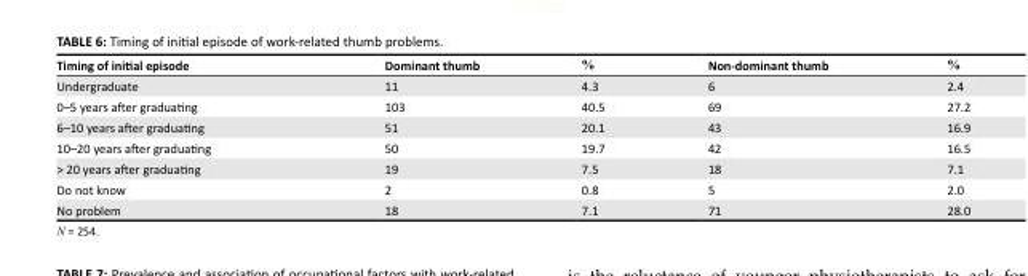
<table><thead><tr><td>Timing of initial episode</td><td>Dominant thumb</td><td>%</td><td>Non-dominant thumb</td><td>%</td></tr></thead><tbody><tr><td>Undergraduate</td><td>11</td><td>4.3</td><td>6</td><td>2.4</td></tr><tr><td>0–5 years after graduating</td><td>103</td><td>40.5</td><td>69</td><td>27.2</td></tr><tr><td>6–10 years after graduating</td><td>51</td><td>20.1</td><td>43</td><td>16.9</td></tr><tr><td>10–20 years after graduating</td><td>50</td><td>19.7</td><td>42</td><td>16.5</td></tr><tr><td>&gt; 20 years after graduating</td><td>19</td><td>7.5</td><td>18</td><td>7.1</td></tr><tr><td>Do not know</td><td>2</td><td>0.8</td><td>5</td><td>2.0</td></tr><tr><td>No problem</td><td>18</td><td>7.1</td><td>71</td><td>28.0</td></tr></tbody></table>